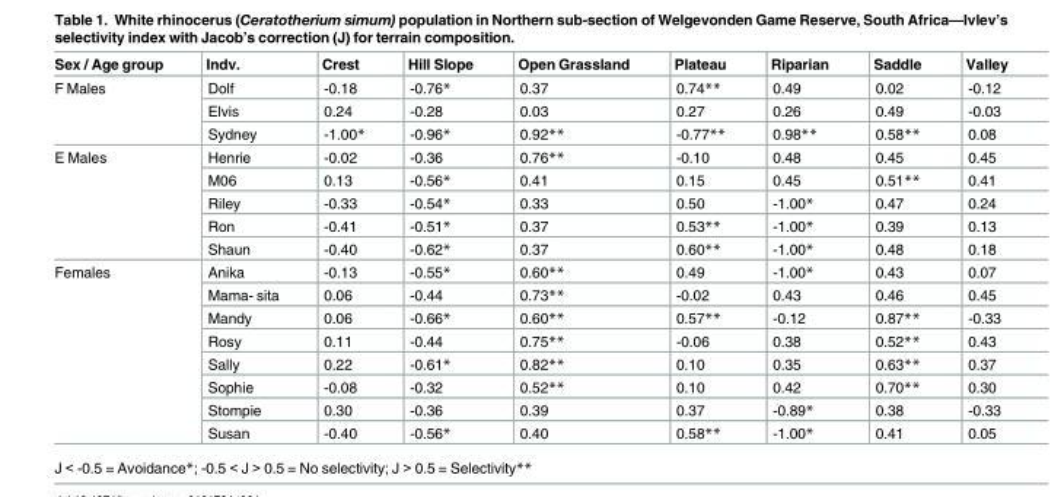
<table><thead><tr><td>Sex / Age group</td><td>Indv.</td><td>Crest</td><td>Hill Slope</td><td>Open Grassland</td><td>Plateau</td><td>Riparian</td><td>Saddle</td><td>Valley</td></tr></thead><tbody><tr><td rowspan="3">F Males</td><td>Dolf</td><td>-0.18</td><td>-0.76*</td><td>0.37</td><td>0.74**</td><td>0.49</td><td>0.02</td><td>-0.12</td></tr><tr><td>Elvis</td><td>0.24</td><td>-0.28</td><td>0.03</td><td>0.27</td><td>0.26</td><td>0.49</td><td>-0.03</td></tr><tr><td>Sydney</td><td>-1.00*</td><td>-0.96*</td><td>0.92**</td><td>-0.77**</td><td>0.98**</td><td>0.58**</td><td>0.08</td></tr><tr><td rowspan="5">E Males</td><td>Henrie</td><td>-0.02</td><td>-0.36</td><td>0.76**</td><td>-0.10</td><td>0.48</td><td>0.45</td><td>0.45</td></tr><tr><td>M06</td><td>0.13</td><td>-0.56*</td><td>0.41</td><td>0.15</td><td>0.45</td><td>0.51**</td><td>0.41</td></tr><tr><td>Riley</td><td>-0.33</td><td>-0.54*</td><td>0.33</td><td>0.50</td><td>-1.00*</td><td>0.47</td><td>0.24</td></tr><tr><td>Ron</td><td>-0.41</td><td>-0.51*</td><td>0.37</td><td>0.53**</td><td>-1.00*</td><td>0.39</td><td>0.13</td></tr><tr><td>Shaun</td><td>-0.40</td><td>-0.62*</td><td>0.37</td><td>0.60**</td><td>-1.00*</td><td>0.48</td><td>0.18</td></tr><tr><td rowspan="8">Females</td><td>Anika</td><td>-0.13</td><td>-0.55*</td><td>0.60**</td><td>0.49</td><td>-1.00*</td><td>0.43</td><td>0.07</td></tr><tr><td>Mama- sita</td><td>0.06</td><td>-0.44</td><td>0.73**</td><td>-0.02</td><td>0.43</td><td>0.46</td><td>0.45</td></tr><tr><td>Mandy</td><td>0.06</td><td>-0.66*</td><td>0.60**</td><td>0.57**</td><td>-0.12</td><td>0.87**</td><td>-0.33</td></tr><tr><td>Rosy</td><td>0.11</td><td>-0.44</td><td>0.75**</td><td>-0.06</td><td>0.38</td><td>0.52**</td><td>0.43</td></tr><tr><td>Sally</td><td>0.22</td><td>-0.61*</td><td>0.82**</td><td>0.10</td><td>0.35</td><td>0.63**</td><td>0.37</td></tr><tr><td>Sophie</td><td>-0.08</td><td>-0.32</td><td>0.52**</td><td>0.10</td><td>0.42</td><td>0.70**</td><td>0.30</td></tr><tr><td>Stompie</td><td>0.30</td><td>-0.36</td><td>0.39</td><td>0.37</td><td>-0.89*</td><td>0.38</td><td>-0.33</td></tr><tr><td>Susan</td><td>-0.40</td><td>-0.56*</td><td>0.40</td><td>0.58**</td><td>-1.00*</td><td>0.41</td><td>0.05</td></tr></tbody></table>